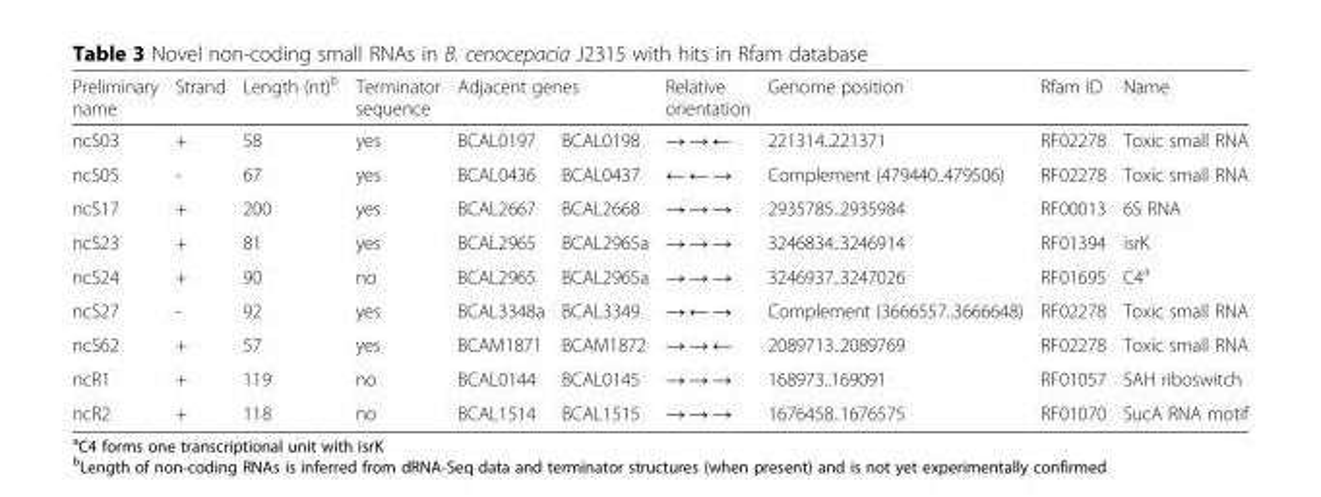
<table><thead><tr><td rowspan="2">Preliminary name ncS03</td><td rowspan="2">Strand +</td><td rowspan="2">Length (nt)<sup>b</sup> 58</td><td rowspan="2">Terminator sequence yes</td><td colspan="2">Adjacent genes</td><td rowspan="2">Relative orientation → → ←</td><td rowspan="2">Genome position 221314..221371</td><td rowspan="2">Rfam ID RF02278</td><td rowspan="2">Name Toxic small RNA</td></tr><tr><td>BCAL0197</td><td>BCAL0198</td></tr></thead><tbody><tr><td>ncS05</td><td>-</td><td>67</td><td>yes</td><td>BCAL0436</td><td>BCAL0437</td><td>← ← →</td><td>Complement (479440..479506)</td><td>RF02278</td><td>Toxic small RNA</td></tr><tr><td>ncS17</td><td>+</td><td>200</td><td>yes</td><td>BCAL2667</td><td>BCAL2668</td><td>→ → →</td><td>2935785..2935984</td><td>RF00013</td><td>6S RNA</td></tr><tr><td>ncS23</td><td>+</td><td>81</td><td>yes</td><td>BCAL2965</td><td>BCAL2965a</td><td>→ → →</td><td>3246834..3246914</td><td>RF01394</td><td>isrK</td></tr><tr><td>ncS24</td><td>+</td><td>90</td><td>no</td><td>BCAL2965</td><td>BCAL2965a</td><td>→ → →</td><td>3246937..3247026</td><td>RF01695</td><td>C4<sup>a</sup></td></tr><tr><td>ncS27</td><td>-</td><td>92</td><td>yes</td><td>BCAL3348a</td><td>BCAL3349</td><td>→ ← →</td><td>Complement (3666557..3666648)</td><td>RF02278</td><td>Toxic small RNA</td></tr><tr><td>ncS62</td><td>+</td><td>57</td><td>yes</td><td>BCAM1871</td><td>BCAM1872</td><td>→ → ←</td><td>2089713..2089769</td><td>RF02278</td><td>Toxic small RNA</td></tr><tr><td>ncR1</td><td>+</td><td>119</td><td>no</td><td>BCAL0144</td><td>BCAL0145</td><td>→ → →</td><td>168973..169091</td><td>RF01057</td><td>SAH riboswitch</td></tr><tr><td>ncR2</td><td>+</td><td>118</td><td>no</td><td>BCAL1514</td><td>BCAL1515</td><td>→ → →</td><td>1676458..1676575</td><td>RF01070</td><td>SucA RNA motif</td></tr></tbody></table>